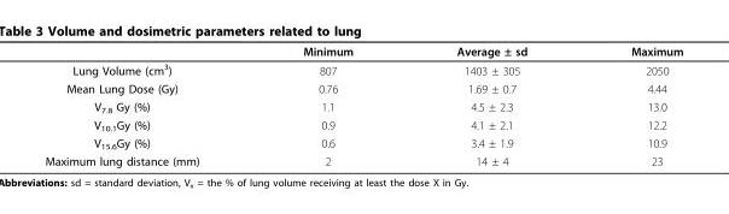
<table><thead><tr><td></td><td>Minimum</td><td>Average ± sd</td><td>Maximum</td></tr></thead><tbody><tr><td>Lung Volume (cm<sup>3</sup>)</td><td>807</td><td>1403 ± 305</td><td>2050</td></tr><tr><td>Mean Lung Dose (Gy)</td><td>0.76</td><td>1.69 ± 0.7</td><td>4.44</td></tr><tr><td>V<sub>7.8</sub> Gy (%)</td><td>1.1</td><td>4.5 ± 2.3</td><td>13.0</td></tr><tr><td>V<sub>10.1</sub>Gy (%)</td><td>0.9</td><td>4.1 ± 2.1</td><td>12.2</td></tr><tr><td>V<sub>15.6</sub>Gy (%)</td><td>0.6</td><td>3.4 ± 1.9</td><td>10.9</td></tr><tr><td>Maximum lung distance (mm)</td><td>2</td><td>14 ± 4</td><td>23</td></tr></tbody></table>